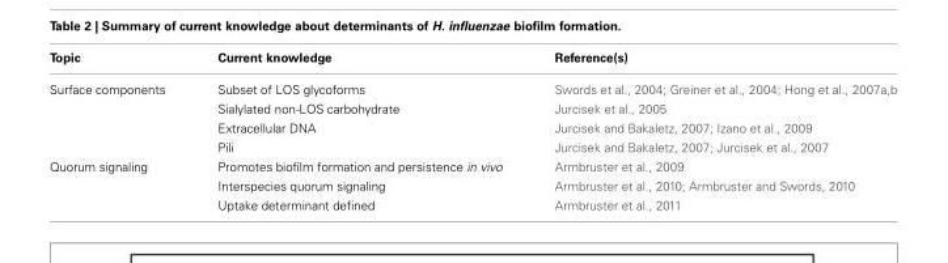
<table><thead><tr><td>Topic</td><td>Current knowledge</td><td>Reference(s)</td></tr></thead><tbody><tr><td rowspan="4">Surface components</td><td>Subset of LOS glycoforms</td><td>Swords et al., 2004; Greiner et al., 2004; Hong et al., 2007a,b</td></tr><tr><td>Sialylated non-LOS carbohydrate</td><td>Jurcisek et al., 2005</td></tr><tr><td>Extracellular DNA</td><td>Jurcisek and Bakaletz, 2007; Izano et al., 2009</td></tr><tr><td>Pili</td><td>Jurcisek and Bakaletz, 2007; Jurcisek et al., 2007</td></tr><tr><td rowspan="3">Quorum signaling</td><td>Promotes biofilm formation and persistence in vivo</td><td>Armbruster et al., 2009</td></tr><tr><td>Interspecies quorum signaling</td><td>Armbruster et al., 2010; Armbruster and Swords, 2010</td></tr><tr><td>Uptake determinant defined</td><td>Armbruster et al., 2011</td></tr></tbody></table>